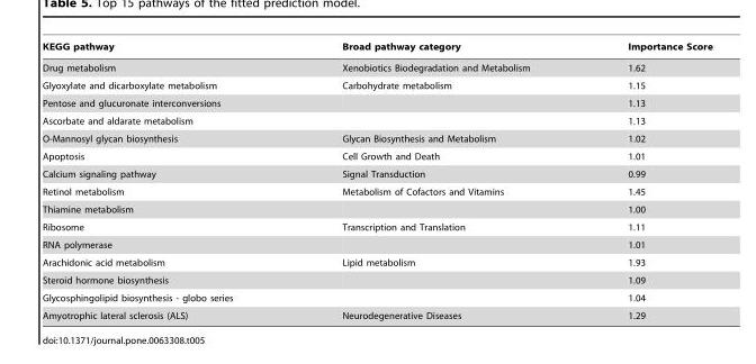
<table><thead><tr><td>KEGG pathway</td><td>Broad pathway category</td><td>Importance Score</td></tr></thead><tbody><tr><td>Drug metabolism</td><td>Xenobiotics Biodegradation and Metabolism</td><td>1.62</td></tr><tr><td>Glyoxylate and dicarboxylate metabolism</td><td>Carbohydrate metabolism</td><td>1.15</td></tr><tr><td>Pentose and glucuronate interconversions</td><td></td><td>1.13</td></tr><tr><td>Ascorbate and aldarate metabolism</td><td></td><td>1.13</td></tr><tr><td>O-Mannosyl glycan biosynthesis</td><td>Glycan Biosynthesis and Metabolism</td><td>1.02</td></tr><tr><td>Apoptosis</td><td>Cell Growth and Death</td><td>1.01</td></tr><tr><td>Calcium signaling pathway</td><td>Signal Transduction</td><td>0.99</td></tr><tr><td>Retinol metabolism</td><td>Metabolism of Cofactors and Vitamins</td><td>1.45</td></tr><tr><td>Thiamine metabolism</td><td></td><td>1.00</td></tr><tr><td>Ribosome</td><td>Transcription and Translation</td><td>1.11</td></tr><tr><td>RNA polymerase</td><td></td><td>1.01</td></tr><tr><td>Arachidonic acid metabolism</td><td>Lipid metabolism</td><td>1.93</td></tr><tr><td>Steroid hormone biosynthesis</td><td></td><td>1.09</td></tr><tr><td>Glycosphingolipid biosynthesis - globo series</td><td></td><td>1.04</td></tr><tr><td>Amyotrophic lateral sclerosis (ALS)</td><td>Neurodegenerative Diseases</td><td>1.29</td></tr></tbody></table>